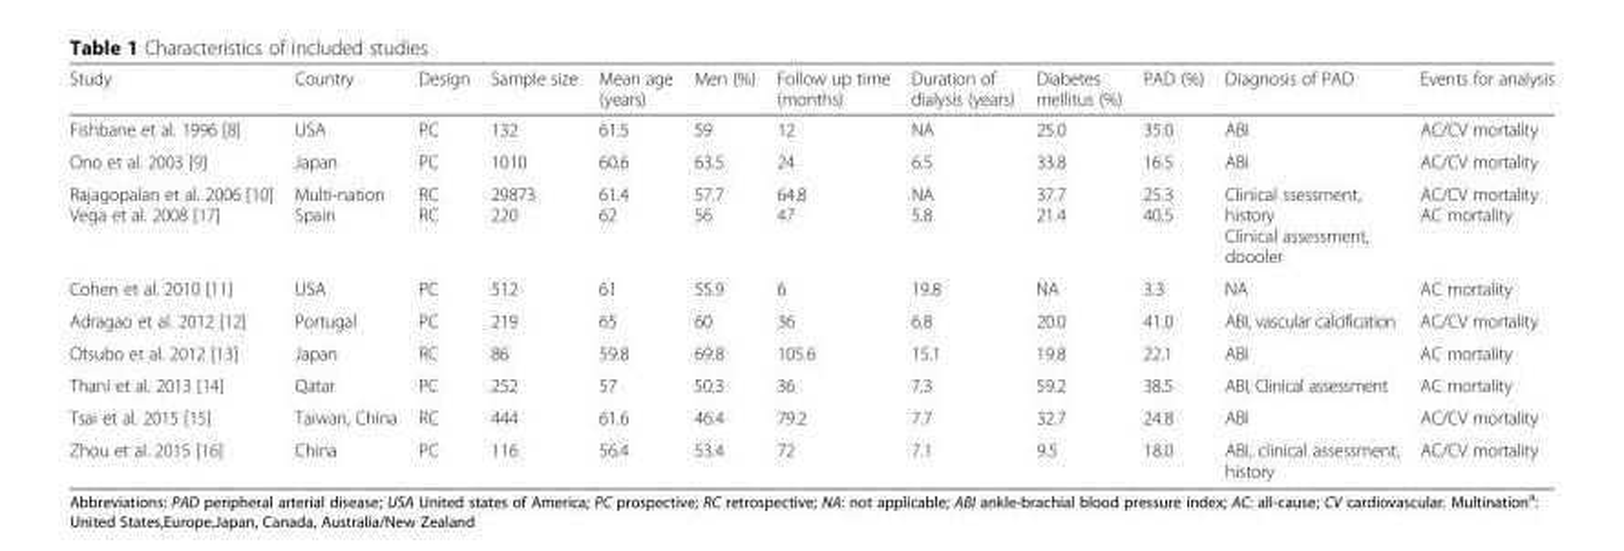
<table><thead><tr><td>Study</td><td>Country</td><td>Design</td><td>Sample size</td><td>Mean age (years)</td><td>Men (%)</td><td>Follow up time (months)</td><td>Duration of dialysis (years)</td><td>Diabetes mellitus (%)</td><td>PAD (%)</td><td>Diagnosis of PAD</td><td>Events for analysis</td></tr></thead><tbody><tr><td>Fishbane et al. 1996 [8]</td><td>USA</td><td>PC</td><td>132</td><td>61.5</td><td>59</td><td>12</td><td>NA</td><td>25.0</td><td>35.0</td><td>ABI</td><td>AC/CV mortality</td></tr><tr><td>Ono et al. 2003 [9]</td><td>Japan</td><td>PC</td><td>1010</td><td>60.6</td><td>63.5</td><td>24</td><td>6.5</td><td>33.8</td><td>16.5</td><td>ABI</td><td>AC/CV mortality</td></tr><tr><td>Rajagopalan et al. 2006 [10] Vega et al. 2008 [17]</td><td>Multi-nation Spain</td><td>RC RC</td><td>29873 220</td><td>61.4 62</td><td>57.7 56</td><td>64.8 47</td><td>NA 5.8</td><td>37.7 21.4</td><td>25.3 40.5</td><td>Clinical ssessment, history Clinical assessment, doooler</td><td>AC/CV mortality AC mortality</td></tr><tr><td>Cohen et al. 2010 [11]</td><td>USA</td><td>PC</td><td>512</td><td>61</td><td>55.9</td><td>6</td><td>19.8</td><td>NA</td><td>3.3</td><td>NA</td><td>AC mortality</td></tr><tr><td>Adragao et al. 2012 [12]</td><td>Portugal</td><td>PC</td><td>219</td><td>65</td><td>60</td><td>36</td><td>6.8</td><td>20.0</td><td>41.0</td><td>ABI, vascular calcification</td><td>AC/CV mortality</td></tr><tr><td>Otsubo et al. 2012 [13]</td><td>Japan</td><td>RC</td><td>86</td><td>59.8</td><td>69.8</td><td>105.6</td><td>15.1</td><td>19.8</td><td>22.1</td><td>ABI</td><td>AC mortality</td></tr><tr><td>Thani et al. 2013 [14]</td><td>Qatar</td><td>PC</td><td>252</td><td>57</td><td>50.3</td><td>36</td><td>7.3</td><td>59.2</td><td>38.5</td><td>ABI, Clinical assessment</td><td>AC mortality</td></tr><tr><td>Tsai et al. 2015 [15]</td><td>Taiwan, China</td><td>RC</td><td>444</td><td>61.6</td><td>46.4</td><td>79.2</td><td>7.7</td><td>32.7</td><td>24.8</td><td>ABI</td><td>AC/CV mortality</td></tr><tr><td>Zhou et al. 2015 [16]</td><td>China</td><td>PC</td><td>116</td><td>56.4</td><td>53.4</td><td>72</td><td>7.1</td><td>9.5</td><td>18.0</td><td>ABI, clinical assessment, history</td><td>AC/CV mortality</td></tr></tbody></table>